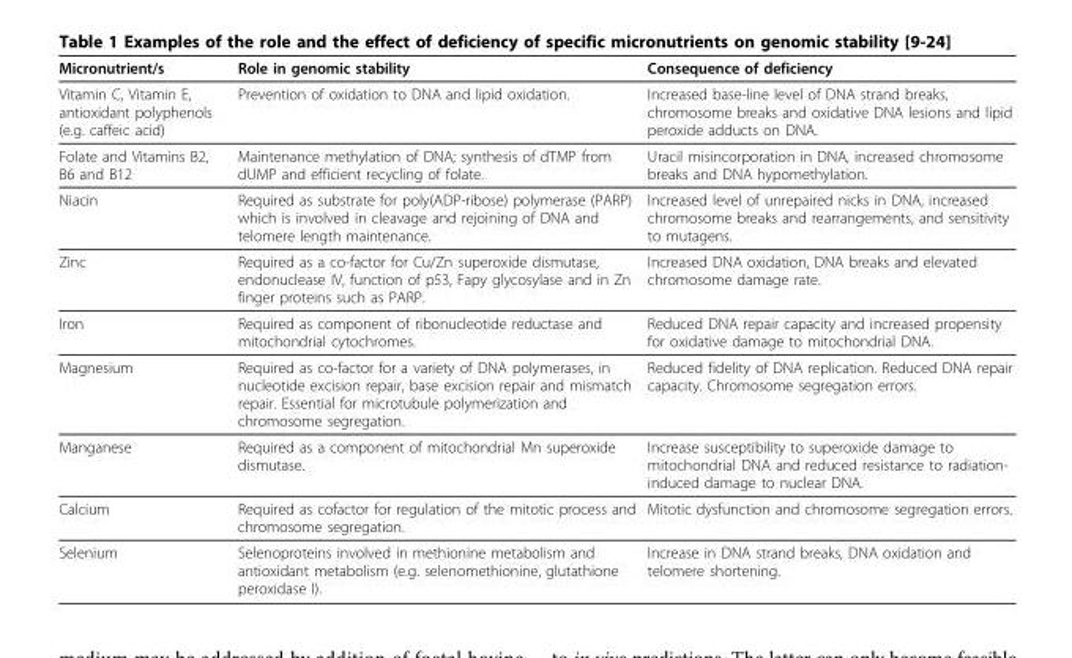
<table><thead><tr><td>Micronutrient/s</td><td>Role in genomic stability</td><td>Consequence of deficiency</td></tr></thead><tbody><tr><td>Vitamin C, Vitamin E, antioxidant polyphenols (e.g. caffeic acid)</td><td>Prevention of oxidation to DNA and lipid oxidation.</td><td>Increased base-line level of DNA strand breaks, chromosome breaks and oxidative DNA lesions and lipid peroxide adducts on DNA.</td></tr><tr><td>Folate and Vitamins B2, B6 and B12</td><td>Maintenance methylation of DNA; synthesis of dTMP from dUMP and efficient recycling of folate.</td><td>Uracil misincorporation in DNA, increased chromosome breaks and DNA hypomethylation.</td></tr><tr><td>Niacin</td><td>Required as substrate for poly(ADP-ribose) polymerase (PARP) which is involved in cleavage and rejoining of DNA and telomere length maintenance.</td><td>Increased level of unrepaired nicks in DNA, increased chromosome breaks and rearrangements, and sensitivity to mutagens.</td></tr><tr><td>Zinc</td><td>Required as a co-factor for Cu/Zn superoxide dismutase, endonuclease IV, function of p53, Fapy glycosylase and in Zn finger proteins such as PARP.</td><td>Increased DNA oxidation, DNA breaks and elevated chromosome damage rate.</td></tr><tr><td>Iron</td><td>Required as component of ribonucleotide reductase and mitochondrial cytochromes.</td><td>Reduced DNA repair capacity and increased propensity for oxidative damage to mitochondrial DNA.</td></tr><tr><td>Magnesium</td><td>Required as co-factor for a variety of DNA polymerases, in nucleotide excision repair, base excision repair and mismatch repair. Essential for microtubule polymerization and chromosome segregation.</td><td>Reduced fidelity of DNA replication. Reduced DNA repair capacity. Chromosome segregation errors.</td></tr><tr><td>Manganese</td><td>Required as a component of mitochondrial Mn superoxide dismutase.</td><td>Increase susceptibility to superoxide damage to mitochondrial DNA and reduced resistance to radiation- induced damage to nuclear DNA.</td></tr><tr><td>Calcium</td><td>Required as cofactor for regulation of the mitotic process and chromosome segregation.</td><td>Mitotic dysfunction and chromosome segregation errors.</td></tr><tr><td>Selenium</td><td>Selenoproteins involved in methionine metabolism and antioxidant metabolism (e.g. selenomethionine, glutathione peroxidase I).</td><td>Increase in DNA strand breaks, DNA oxidation and telomere shortening.</td></tr></tbody></table>